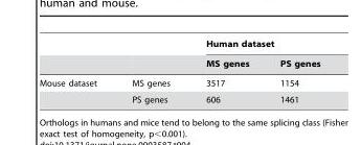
<table><thead><tr><td rowspan="2"></td><td rowspan="2"></td><td colspan="2">Human dataset</td></tr><tr><td>MS genes</td><td>PS genes</td></tr></thead><tbody><tr><td rowspan="2">Mouse dataset</td><td>MS genes</td><td>3517</td><td>1154</td></tr><tr><td>PS genes</td><td>606</td><td>1461</td></tr></tbody></table>